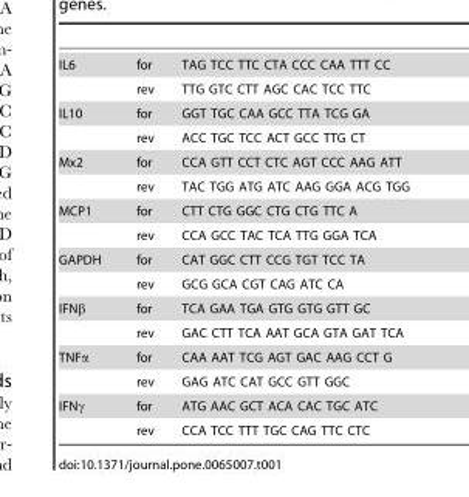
<table><tbody><tr><td rowspan="2">IL6</td><td>for</td><td>TAG TCC TTC CTA CCC CAA TTT CC</td></tr><tr><td>rev</td><td>TTG GTC CTT AGC CAC TCC TTC</td></tr><tr><td rowspan="2">IL10</td><td>for</td><td>GGT TGC CAA GCC TTA TCG GA</td></tr><tr><td>rev</td><td>ACC TGC TCC ACT GCC TTG CT</td></tr><tr><td rowspan="2">Mx2</td><td>for</td><td>CCA GTT CCT CTC AGT CCC AAG ATT</td></tr><tr><td>rev</td><td>TAC TGG ATG ATC AAG GGA ACG TGG</td></tr><tr><td rowspan="2">MCP1</td><td>for</td><td>CTT CTG GGC CTG CTG TTC A</td></tr><tr><td>rev</td><td>CCA GCC TAC TCA TTG GGA TCA</td></tr><tr><td rowspan="2">GAPDH</td><td>for</td><td>CAT GGC CTT CCG TGT TCC TA</td></tr><tr><td>rev</td><td>GCG GCA CGT CAG ATC CA</td></tr><tr><td rowspan="2">IFNβ</td><td>for</td><td>TCA GAA TGA GTG GTG GTT GC</td></tr><tr><td>rev</td><td>GAC CTT TCA AAT GCA GTA GAT TCA</td></tr><tr><td rowspan="2">TNFα</td><td>for</td><td>CAA AAT TCG AGT GAC AAG CCT G</td></tr><tr><td>rev</td><td>GAG ATC CAT GCC GTT GGC</td></tr><tr><td rowspan="2">IFNγ</td><td>for</td><td>ATG AAC GCT ACA CAC TGC ATC</td></tr><tr><td>rev</td><td>CCA TCC TTT TGC CAG TTC CTC</td></tr></tbody></table>